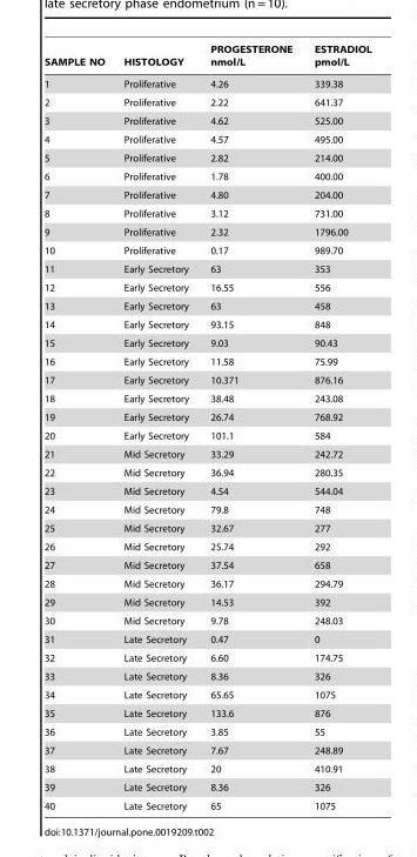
<table><thead><tr><td>SAMPLE NO</td><td>HISTOLOGY</td><td>PROGESTERONE nmol/L</td><td>ESTRADIOL pmol/L</td></tr></thead><tbody><tr><td>1</td><td>Proliferative</td><td>4.26</td><td>339.38</td></tr><tr><td>2</td><td>Proliferative</td><td>2.22</td><td>641.37</td></tr><tr><td>3</td><td>Proliferative</td><td>4.62</td><td>525.00</td></tr><tr><td>4</td><td>Proliferative</td><td>4.57</td><td>495.00</td></tr><tr><td>5</td><td>Proliferative</td><td>2.82</td><td>214.00</td></tr><tr><td>6</td><td>Proliferative</td><td>1.78</td><td>400.00</td></tr><tr><td>7</td><td>Proliferative</td><td>4.80</td><td>204.00</td></tr><tr><td>8</td><td>Proliferative</td><td>3.12</td><td>731.00</td></tr><tr><td>9</td><td>Proliferative</td><td>2.32</td><td>1796.00</td></tr><tr><td>10</td><td>Proliferative</td><td>0.17</td><td>989.70</td></tr><tr><td>11</td><td>Early Secretory</td><td>63</td><td>353</td></tr><tr><td>12</td><td>Early Secretory</td><td>16.55</td><td>556</td></tr><tr><td>13</td><td>Early Secretory</td><td>63</td><td>458</td></tr><tr><td>14</td><td>Early Secretory</td><td>93.15</td><td>848</td></tr><tr><td>15</td><td>Early Secretory</td><td>9.03</td><td>90.43</td></tr><tr><td>16</td><td>Early Secretory</td><td>11.58</td><td>75.99</td></tr><tr><td>17</td><td>Early Secretory</td><td>10.371</td><td>876.16</td></tr><tr><td>18</td><td>Early Secretory</td><td>38.48</td><td>243.08</td></tr><tr><td>19</td><td>Early Secretory</td><td>26.74</td><td>768.92</td></tr><tr><td>20</td><td>Early Secretory</td><td>101.1</td><td>584</td></tr><tr><td>21</td><td>Mid Secretory</td><td>33.29</td><td>242.72</td></tr><tr><td>22</td><td>Mid Secretory</td><td>36.94</td><td>280.35</td></tr><tr><td>23</td><td>Mid Secretory</td><td>4.54</td><td>544.04</td></tr><tr><td>24</td><td>Mid Secretory</td><td>79.8</td><td>748</td></tr><tr><td>25</td><td>Mid Secretory</td><td>32.67</td><td>277</td></tr><tr><td>26</td><td>Mid Secretory</td><td>25.74</td><td>292</td></tr><tr><td>27</td><td>Mid Secretory</td><td>37.54</td><td>658</td></tr><tr><td>28</td><td>Mid Secretory</td><td>36.17</td><td>294.79</td></tr><tr><td>29</td><td>Mid Secretory</td><td>14.53</td><td>392</td></tr><tr><td>30</td><td>Mid Secretory</td><td>9.78</td><td>248.03</td></tr><tr><td>31</td><td>Late Secretory</td><td>0.47</td><td>0</td></tr><tr><td>32</td><td>Late Secretory</td><td>6.60</td><td>174.75</td></tr><tr><td>33</td><td>Late Secretory</td><td>8.36</td><td>326</td></tr><tr><td>34</td><td>Late Secretory</td><td>65.65</td><td>1075</td></tr><tr><td>35</td><td>Late Secretory</td><td>133.6</td><td>876</td></tr><tr><td>36</td><td>Late Secretory</td><td>3.85</td><td>55</td></tr><tr><td>37</td><td>Late Secretory</td><td>7.67</td><td>248.89</td></tr><tr><td>38</td><td>Late Secretory</td><td>20</td><td>410.91</td></tr><tr><td>39</td><td>Late Secretory</td><td>8.36</td><td>326</td></tr><tr><td>40</td><td>Late Secretory</td><td>65</td><td>1075</td></tr></tbody></table>